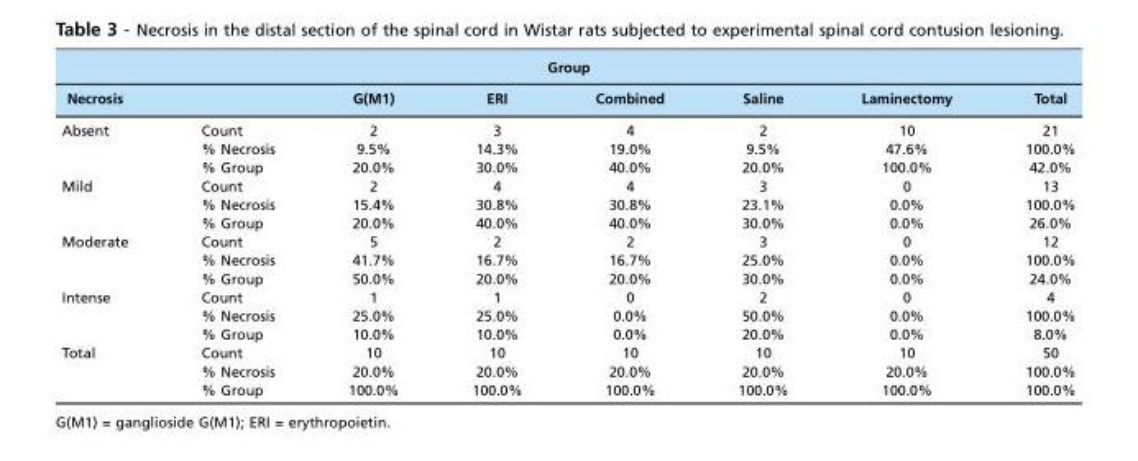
<table><thead><tr><td colspan="8">Group</td></tr><tr><td>Necrosis</td><td></td><td>G(M1)</td><td>ERI</td><td>Combined</td><td>Saline</td><td>Laminectomy</td><td>Total</td></tr></thead><tbody><tr><td rowspan="3">Absent</td><td>Count</td><td>2</td><td>3</td><td>4</td><td>2</td><td>10</td><td>21</td></tr><tr><td>% Necrosis</td><td>9.5%</td><td>14.3%</td><td>19.0%</td><td>9.5%</td><td>47.6%</td><td>100.0%</td></tr><tr><td>% Group</td><td>20.0%</td><td>30.0%</td><td>40.0%</td><td>20.0%</td><td>100.0%</td><td>42.0%</td></tr><tr><td rowspan="3">Mild</td><td>Count</td><td>2</td><td>4</td><td>4</td><td>3</td><td>0</td><td>13</td></tr><tr><td>% Necrosis</td><td>15.4%</td><td>30.8%</td><td>30.8%</td><td>23.1%</td><td>0.0%</td><td>100.0%</td></tr><tr><td>% Group</td><td>20.0%</td><td>40.0%</td><td>40.0%</td><td>30.0%</td><td>0.0%</td><td>26.0%</td></tr><tr><td rowspan="3">Moderate</td><td>Count</td><td>5</td><td>2</td><td>2</td><td>3</td><td>0</td><td>12</td></tr><tr><td>% Necrosis</td><td>41.7%</td><td>16.7%</td><td>16.7%</td><td>25.0%</td><td>0.0%</td><td>100.0%</td></tr><tr><td>% Group</td><td>50.0%</td><td>20.0%</td><td>20.0%</td><td>30.0%</td><td>0.0%</td><td>24.0%</td></tr><tr><td rowspan="3">Intense</td><td>Count</td><td>1</td><td>1</td><td>0</td><td>2</td><td>0</td><td>4</td></tr><tr><td>% Necrosis</td><td>25.0%</td><td>25.0%</td><td>0.0%</td><td>50.0%</td><td>0.0%</td><td>100.0%</td></tr><tr><td>% Group</td><td>10.0%</td><td>10.0%</td><td>0.0%</td><td>20.0%</td><td>0.0%</td><td>8.0%</td></tr><tr><td rowspan="3">Total</td><td>Count</td><td>10</td><td>10</td><td>10</td><td>10</td><td>10</td><td>50</td></tr><tr><td>% Necrosis</td><td>20.0%</td><td>20.0%</td><td>20.0%</td><td>20.0%</td><td>20.0%</td><td>100.0%</td></tr><tr><td>% Group</td><td>100.0%</td><td>100.0%</td><td>100.0%</td><td>100.0%</td><td>100.0%</td><td>100.0%</td></tr></tbody></table>